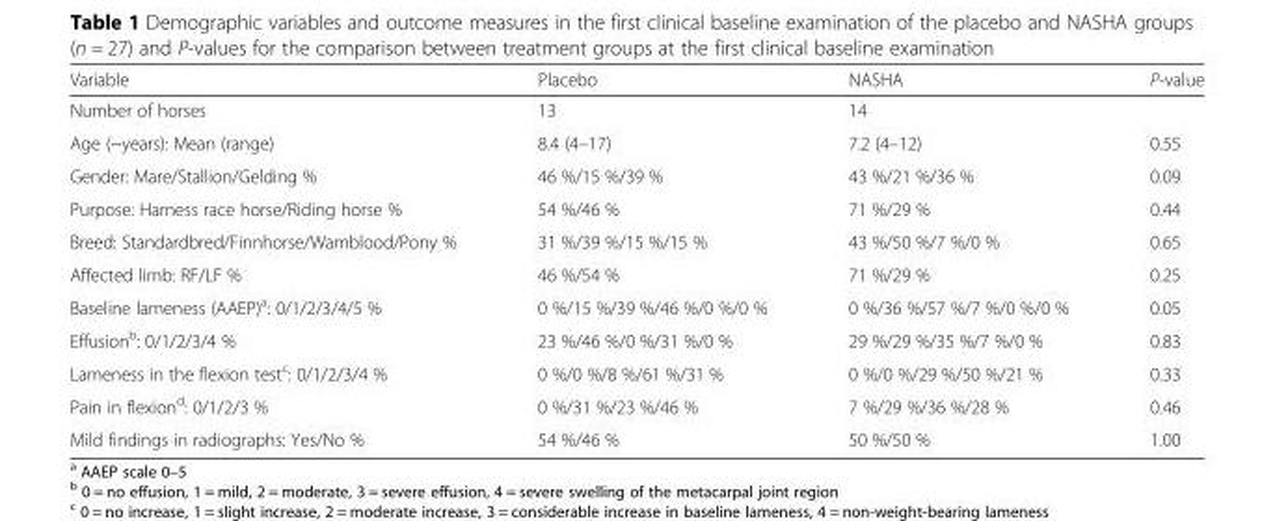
<table><thead><tr><td>Variable</td><td>Placebo</td><td>NASHA</td><td>P-value</td></tr></thead><tbody><tr><td>Number of horses</td><td>13</td><td>14</td><td></td></tr><tr><td>Age (~years): Mean (range)</td><td>8.4 (4–17)</td><td>7.2 (4–12)</td><td>0.55</td></tr><tr><td>Gender: Mare/Stallion/Gelding %</td><td>46 %/15 %/39 %</td><td>43 %/21 %/36 %</td><td>0.09</td></tr><tr><td>Purpose: Harness race horse/Riding horse %</td><td>54 %/46 %</td><td>71 %/29 %</td><td>0.44</td></tr><tr><td>Breed: Standardbred/Finnhorse/Wamblood/Pony %</td><td>31 %/39 %/15 %/15 %</td><td>43 %/50 %/7 %/0 %</td><td>0.65</td></tr><tr><td>Affected limb: RF/LF %</td><td>46 %/54 %</td><td>71 %/29 %</td><td>0.25</td></tr><tr><td>Baseline lameness (AAEP)<sup>a</sup>: 0/1/2/3/4/5 %</td><td>0 %/15 %/39 %/46 %/0 %/0 %</td><td>0 %/36 %/57 %/7 %/0 %/0 %</td><td>0.05</td></tr><tr><td>Effusion<sup>b</sup>: 0/1/2/3/4 %</td><td>23 %/46 %/0 %/31 %/0 %</td><td>29 %/29 %/35 %/7 %/0 %</td><td>0.83</td></tr><tr><td>Lameness in the flexion test<sup>c</sup>: 0/1/2/3/4 %</td><td>0 %/0 %/8 %/61 %/31 %</td><td>0 %/0 %/29 %/50 %/21 %</td><td>0.33</td></tr><tr><td>Pain in flexion<sup>d</sup>: 0/1/2/3 %</td><td>0 %/31 %/23 %/46 %</td><td>7 %/29 %/36 %/28 %</td><td>0.46</td></tr><tr><td>Mild findings in radiographs: Yes/No %</td><td>54 %/46 %</td><td>50 %/50 %</td><td>1.00</td></tr></tbody></table>